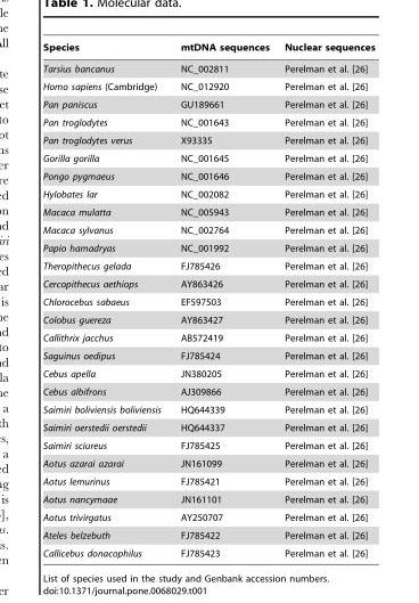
<table><thead><tr><td>Species</td><td>mtDNA sequences</td><td>Nuclear sequences</td></tr></thead><tbody><tr><td>Tarsius bancanus</td><td>NC_002811</td><td>Perelman et al. [26]</td></tr><tr><td>Homo sapiens (Cambridge)</td><td>NC_012920</td><td>Perelman et al. [26]</td></tr><tr><td>Pan paniscus</td><td>GU189661</td><td>Perelman et al. [26]</td></tr><tr><td>Pan troglodytes</td><td>NC_001643</td><td>Perelman et al. [26]</td></tr><tr><td>Pan troglodytes verus</td><td>X93335</td><td>Perelman et al. [26]</td></tr><tr><td>Gorilla gorilla</td><td>NC_001645</td><td>Perelman et al. [26]</td></tr><tr><td>Pongo pygmaeus</td><td>NC_001646</td><td>Perelman et al. [26]</td></tr><tr><td>Hylobates lar</td><td>NC_002082</td><td>Perelman et al. [26]</td></tr><tr><td>Macaca mulatta</td><td>NC_005943</td><td>Perelman et al. [26]</td></tr><tr><td>Macaca sylvanus</td><td>NC_002764</td><td>Perelman et al. [26]</td></tr><tr><td>Papio hamadryas</td><td>NC_001992</td><td>Perelman et al. [26]</td></tr><tr><td>Theropithecus gelada</td><td>FJ785426</td><td>Perelman et al. [26]</td></tr><tr><td>Cercopithecus aethiops</td><td>AY863426</td><td>Perelman et al. [26]</td></tr><tr><td>Chlorocebus sabaeus</td><td>EF597503</td><td>Perelman et al. [26]</td></tr><tr><td>Colobus guereza</td><td>AY863427</td><td>Perelman et al. [26]</td></tr><tr><td>Callithrix jacchus</td><td>AB572419</td><td>Perelman et al. [26]</td></tr><tr><td>Saguinus oedipus</td><td>FJ785424</td><td>Perelman et al. [26]</td></tr><tr><td>Cebus apella</td><td>JN380205</td><td>Perelman et al. [26]</td></tr><tr><td>Cebus albifrons</td><td>AJ309866</td><td>Perelman et al. [26]</td></tr><tr><td>Saimiri boliviensis boliviensis</td><td>HQ644339</td><td>Perelman et al. [26]</td></tr><tr><td>Saimiri oerstedii oerstedii</td><td>HQ644337</td><td>Perelman et al. [26]</td></tr><tr><td>Saimiri sciureus</td><td>FJ785425</td><td>Perelman et al. [26]</td></tr><tr><td>Aotus azarai azarai</td><td>JN161099</td><td>Perelman et al. [26]</td></tr><tr><td>Aotus lemurinus</td><td>FJ785421</td><td>Perelman et al. [26]</td></tr><tr><td>Aotus nancymaae</td><td>JN161101</td><td>Perelman et al. [26]</td></tr><tr><td>Aotus trivirgatus</td><td>AY250707</td><td>Perelman et al. [26]</td></tr><tr><td>Ateles belzebuth</td><td>FJ785422</td><td>Perelman et al. [26]</td></tr><tr><td>Callicebus donacophilus</td><td>FJ785423</td><td>Perelman et al. [26]</td></tr></tbody></table>